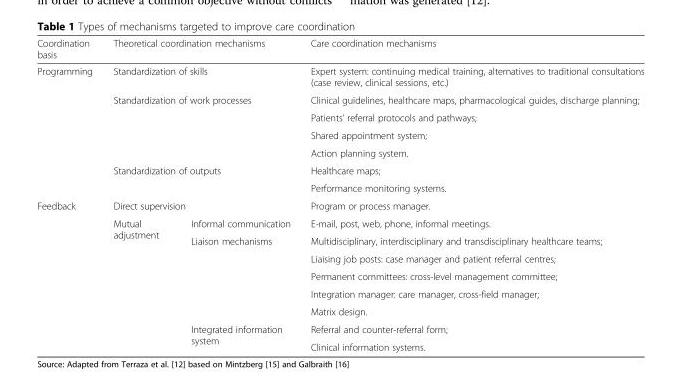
<table><thead><tr><td>Coordination basis</td><td colspan="2">Theoretical coordination mechanisms</td><td>Care coordination mechanisms</td></tr></thead><tbody><tr><td rowspan="7">Programming</td><td colspan="2">Standardization of skills</td><td>Expert system: continuing medical training, alternatives to traditional consultations (case review, clinical sessions, etc.)</td></tr><tr><td rowspan="4" colspan="2">Standardization of work processes</td><td>Clinical guidelines, healthcare maps, pharmacological guides, discharge planning;</td></tr><tr><td>Patients’ referral protocols and pathways;</td></tr><tr><td>Shared appointment system;</td></tr><tr><td>Action planning system.</td></tr><tr><td rowspan="2" colspan="2">Standardization of outputs</td><td>Healthcare maps;</td></tr><tr><td>Performance monitoring systems.</td></tr><tr><td rowspan="9">Feedback</td><td colspan="2">Direct supervision</td><td>Program or process manager.</td></tr><tr><td rowspan="8">Mutual adjustment</td><td>Informal communication</td><td>E-mail, post, web, phone, informal meetings.</td></tr><tr><td rowspan="5">Liaison mechanisms</td><td>Multidisciplinary, interdisciplinary and transdisciplinary healthcare teams;</td></tr><tr><td>Liaising job posts: case manager and patient referral centres;</td></tr><tr><td>Permanent committees: cross-level management committee;</td></tr><tr><td>Integration manager: care manager, cross-field manager;</td></tr><tr><td>Matrix design.</td></tr><tr><td rowspan="2">Integrated information system</td><td>Referral and counter-referral form;</td></tr><tr><td>Clinical information systems.</td></tr></tbody></table>